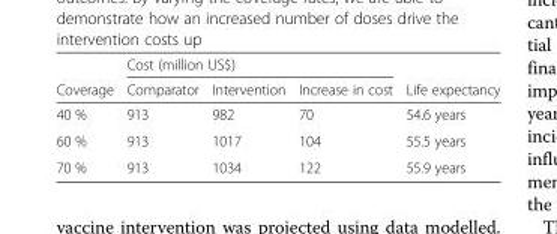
<table><thead><tr><td rowspan="2">Coverage</td><td colspan="3">Cost (million US$)</td><td rowspan="2">Life expectancy</td></tr><tr><td>Comparator</td><td>Intervention</td><td>Increase in cost</td></tr></thead><tbody><tr><td>40 %</td><td>913</td><td>982</td><td>70</td><td>54.6 years</td></tr><tr><td>60 %</td><td>913</td><td>1017</td><td>104</td><td>55.5 years</td></tr><tr><td>70 %</td><td>913</td><td>1034</td><td>122</td><td>55.9 years</td></tr></tbody></table>